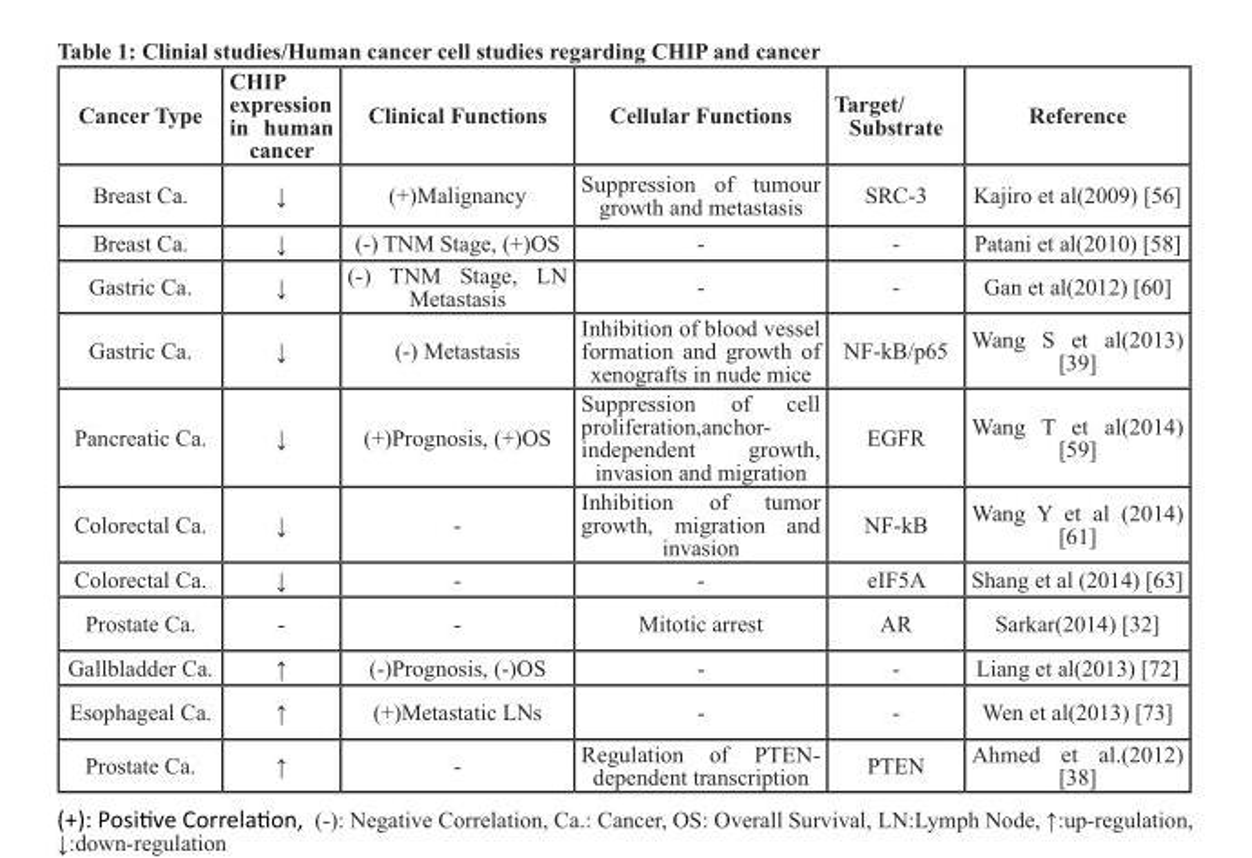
<table><thead><tr><td>Cancer Type</td><td>CHIP expression in human cancer</td><td>Clinical Functions</td><td>Cellular Functions</td><td>Target/ Substrate</td><td>Reference</td></tr></thead><tbody><tr><td>Breast Ca.</td><td>↓</td><td>(+)Malignancy</td><td>Suppression of tumour growth and metastasis</td><td>SRC-3</td><td>Kajiro et al(2009) [56]</td></tr><tr><td>Breast Ca.</td><td>↓</td><td>(-) TNM Stage, (+)OS</td><td>-</td><td>-</td><td>Patani et al(2010) [58]</td></tr><tr><td>Gastric Ca.</td><td>↓</td><td>(-) TNM Stage, LN Metastasis</td><td>-</td><td>-</td><td>Gan et al(2012) [60]</td></tr><tr><td>Gastric Ca.</td><td>↓</td><td>(-) Metastasis</td><td>Inhibition of blood vessel formation and growth of xenografts in nude mice</td><td>NF-kB/p65</td><td>Wang S et al(2013) [39]</td></tr><tr><td>Pancreatic Ca.</td><td>↓</td><td>(+)Prognosis, (+)OS</td><td>Suppression of cell proliferation,anchor- independent growth, invasion and migration</td><td>EGFR</td><td>Wang T et al(2014) [59]</td></tr><tr><td>Colorectal Ca.</td><td>↓</td><td>-</td><td>Inhibition of tumor growth, migration and invasion</td><td>NF-kB</td><td>Wang Y et al (2014) [61]</td></tr><tr><td>Colorectal Ca.</td><td>↓</td><td>-</td><td>-</td><td>eIF5A</td><td>Shang et al (2014) [63]</td></tr><tr><td>Prostate Ca.</td><td>-</td><td>-</td><td>Mitotic arrest</td><td>AR</td><td>Sarkar(2014) [32]</td></tr><tr><td>Gallbladder Ca.</td><td>↑</td><td>(-)Prognosis, (-)OS</td><td>-</td><td>-</td><td>Liang et al(2013) [72]</td></tr><tr><td>Esophageal Ca.</td><td>↑</td><td>(+)Metastatic LNs</td><td>-</td><td>-</td><td>Wen et al(2013) [73]</td></tr><tr><td>Prostate Ca.</td><td>↑</td><td>-</td><td>Regulation of PTEN- dependent transcription</td><td>PTEN</td><td>Ahmed et al.(2012) [38]</td></tr></tbody></table>